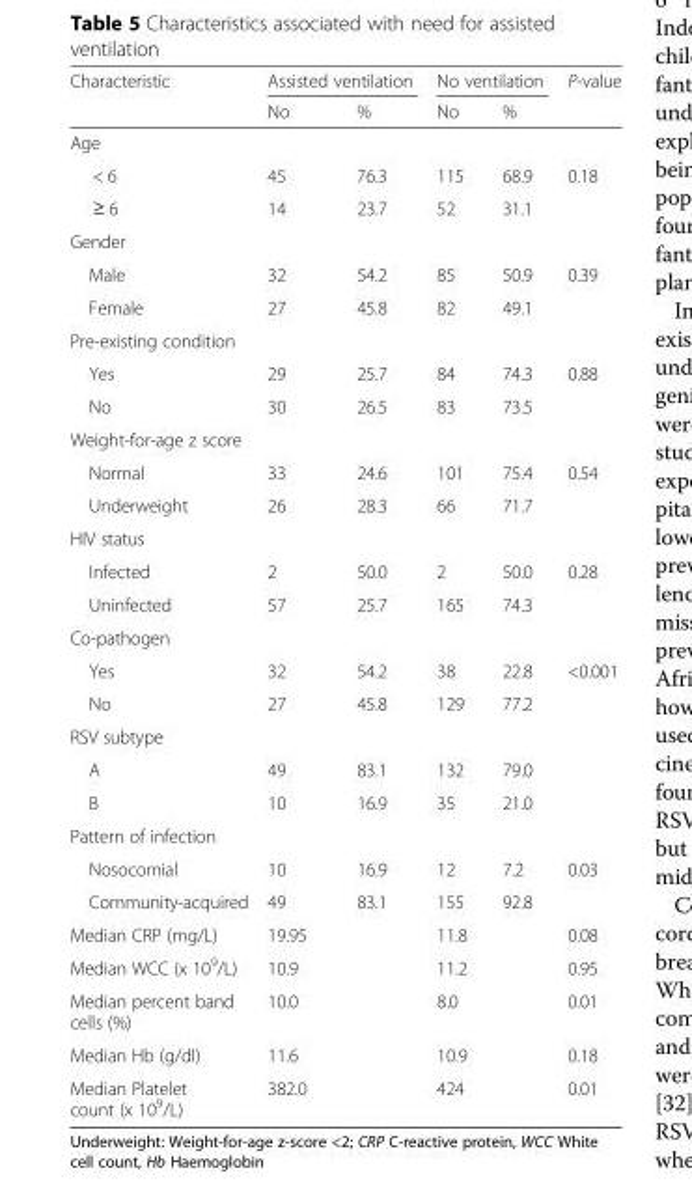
<table><thead><tr><td rowspan="2">Characteristic</td><td colspan="2">Assisted ventilation</td><td colspan="2">No ventilation</td><td rowspan="2">P-value</td></tr><tr><td>No</td><td>%</td><td>No</td><td>%</td></tr></thead><tbody><tr><td colspan="6">Age</td></tr><tr><td>&lt; 6</td><td>45</td><td>76.3</td><td>115</td><td>68.9</td><td>0.18</td></tr><tr><td>≥ 6</td><td>14</td><td>23.7</td><td>52</td><td>31.1</td><td></td></tr><tr><td colspan="6">Gender</td></tr><tr><td>Male</td><td>32</td><td>54.2</td><td>85</td><td>50.9</td><td>0.39</td></tr><tr><td>Female</td><td>27</td><td>45.8</td><td>82</td><td>49.1</td><td></td></tr><tr><td colspan="6">Pre-existing condition</td></tr><tr><td>Yes</td><td>29</td><td>25.7</td><td>84</td><td>74.3</td><td>0.88</td></tr><tr><td>No</td><td>30</td><td>26.5</td><td>83</td><td>73.5</td><td></td></tr><tr><td colspan="6">Weight-for-age z score</td></tr><tr><td>Normal</td><td>33</td><td>24.6</td><td>101</td><td>75.4</td><td>0.54</td></tr><tr><td>Underweight</td><td>26</td><td>28.3</td><td>66</td><td>71.7</td><td></td></tr><tr><td colspan="6">HIV status</td></tr><tr><td>Infected</td><td>2</td><td>50.0</td><td>2</td><td>50.0</td><td>0.28</td></tr><tr><td>Uninfected</td><td>57</td><td>25.7</td><td>165</td><td>74.3</td><td></td></tr><tr><td colspan="6">Co-pathogen</td></tr><tr><td>Yes</td><td>32</td><td>54.2</td><td>38</td><td>22.8</td><td>&lt;0.001</td></tr><tr><td>No</td><td>27</td><td>45.8</td><td>129</td><td>77.2</td><td></td></tr><tr><td colspan="6">RSV subtype</td></tr><tr><td>A</td><td>49</td><td>83.1</td><td>132</td><td>79.0</td><td></td></tr><tr><td>B</td><td>10</td><td>16.9</td><td>35</td><td>21.0</td><td></td></tr><tr><td colspan="6">Pattern of infection</td></tr><tr><td>Nosocomial</td><td>10</td><td>16.9</td><td>12</td><td>7.2</td><td>0.03</td></tr><tr><td>Community-acquired</td><td>49</td><td>83.1</td><td>155</td><td>92.8</td><td></td></tr><tr><td>Median CRP (mg/L)</td><td>19.95</td><td></td><td>11.8</td><td></td><td>0.08</td></tr><tr><td>Median WCC (x 10<sup>9</sup>/L)</td><td>10.9</td><td></td><td>11.2</td><td></td><td>0.95</td></tr><tr><td>Median percent band cells (%)</td><td>10.0</td><td></td><td>8.0</td><td></td><td>0.01</td></tr><tr><td>Median Hb (g/dl)</td><td>11.6</td><td></td><td>10.9</td><td></td><td>0.18</td></tr><tr><td>Median Platelet count (x 10<sup>9</sup>/L)</td><td>382.0</td><td></td><td>424</td><td></td><td>0.01</td></tr></tbody></table>